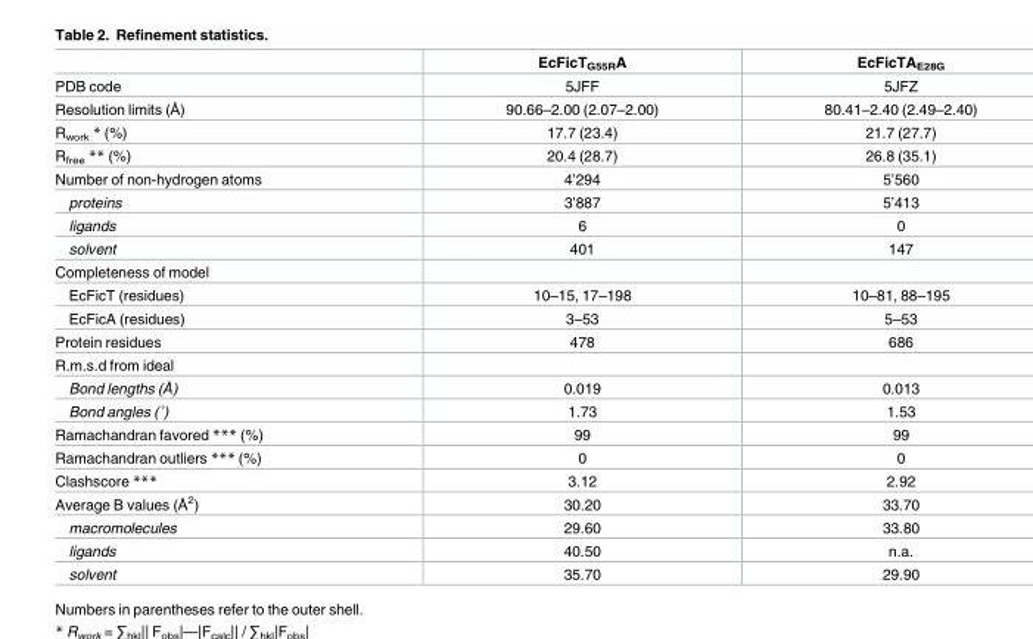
<table><thead><tr><td></td><td>EcFicT<sub>G55R</sub>A</td><td>EcFicTA<sub>E28G</sub></td></tr></thead><tbody><tr><td>PDB code</td><td>5JFF</td><td>5JFZ</td></tr><tr><td>Resolution limits (Å)</td><td>90.66–2.00 (2.07–2.00)</td><td>80.41–2.40 (2.49–2.40)</td></tr><tr><td>R<sub>work</sub> * (%)</td><td>17.7 (23.4)</td><td>21.7 (27.7)</td></tr><tr><td>R<sub>free</sub> ** (%)</td><td>20.4 (28.7)</td><td>26.8 (35.1)</td></tr><tr><td>Number of non-hydrogen atoms</td><td>4’294</td><td>5’560</td></tr><tr><td>proteins</td><td>3’887</td><td>5’413</td></tr><tr><td>ligands</td><td>6</td><td>0</td></tr><tr><td>solvent</td><td>401</td><td>147</td></tr><tr><td colspan="3">Completeness of model</td></tr><tr><td>EcFicT (residues)</td><td>10–15, 17–198</td><td>10–81, 88–195</td></tr><tr><td>EcFicA (residues)</td><td>3–53</td><td>5–53</td></tr><tr><td>Protein residues</td><td>478</td><td>686</td></tr><tr><td colspan="3">R.m.s.d from ideal</td></tr><tr><td>Bond lengths (Å)</td><td>0.019</td><td>0.013</td></tr><tr><td>Bond angles (˚)</td><td>1.73</td><td>1.53</td></tr><tr><td>Ramachandran favored *** (%)</td><td>99</td><td>99</td></tr><tr><td>Ramachandran outliers *** (%)</td><td>0</td><td>0</td></tr><tr><td>Clashscore ***</td><td>3.12</td><td>2.92</td></tr><tr><td>Average B values (Å<sup>2</sup>)</td><td>30.20</td><td>33.70</td></tr><tr><td>macromolecules</td><td>29.60</td><td>33.80</td></tr><tr><td>ligands</td><td>40.50</td><td>n.a.</td></tr><tr><td>solvent</td><td>35.70</td><td>29.90</td></tr></tbody></table>